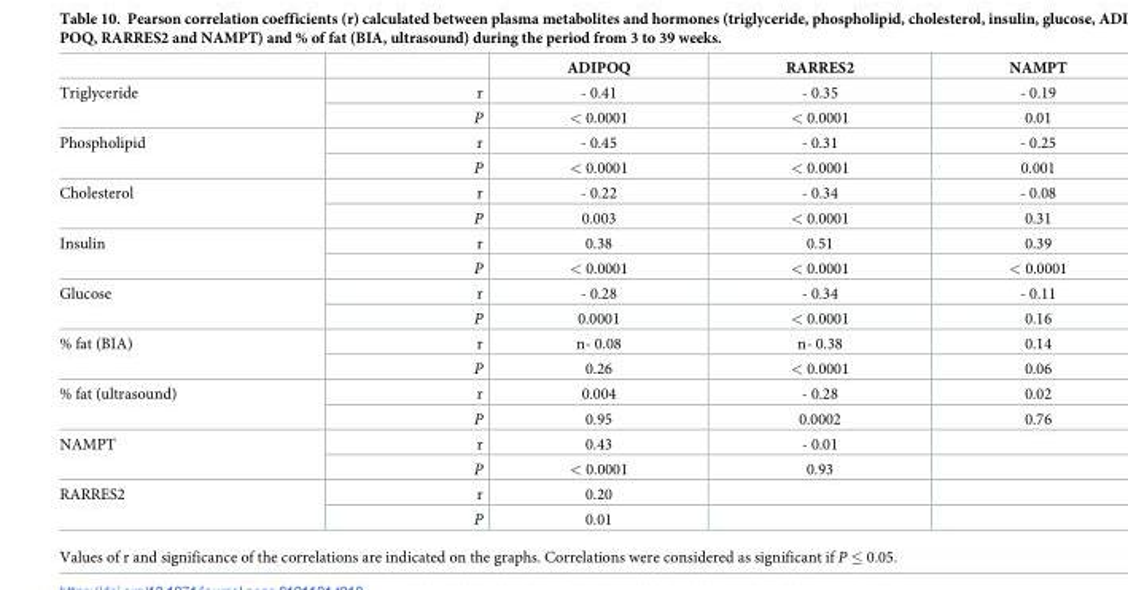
<table><thead><tr><td></td><td></td><td>ADIPOQ</td><td>RARRES2</td><td>NAMPT</td></tr></thead><tbody><tr><td rowspan="2">Triglyceride</td><td>r</td><td>- 0.41</td><td>- 0.35</td><td>- 0.19</td></tr><tr><td>P</td><td>&lt; 0.0001</td><td>&lt; 0.0001</td><td>0.01</td></tr><tr><td rowspan="2">Phospholipid</td><td>r</td><td>- 0.45</td><td>- 0.31</td><td>- 0.25</td></tr><tr><td>P</td><td>&lt; 0.0001</td><td>&lt; 0.0001</td><td>0.001</td></tr><tr><td rowspan="2">Cholesterol</td><td>r</td><td>- 0.22</td><td>- 0.34</td><td>- 0.08</td></tr><tr><td>P</td><td>0.003</td><td>&lt; 0.0001</td><td>0.31</td></tr><tr><td rowspan="2">Insulin</td><td>r</td><td>0.38</td><td>0.51</td><td>0.39</td></tr><tr><td>P</td><td>&lt; 0.0001</td><td>&lt; 0.0001</td><td>&lt; 0.0001</td></tr><tr><td rowspan="2">Glucose</td><td>r</td><td>- 0.28</td><td>- 0.34</td><td>- 0.11</td></tr><tr><td>P</td><td>0.0001</td><td>&lt; 0.0001</td><td>0.16</td></tr><tr><td rowspan="2">% fat (BIA)</td><td>r</td><td>n- 0.08</td><td>n- 0.38</td><td>0.14</td></tr><tr><td>P</td><td>0.26</td><td>&lt; 0.0001</td><td>0.06</td></tr><tr><td rowspan="2">% fat (ultrasound)</td><td>r</td><td>0.004</td><td>- 0.28</td><td>0.02</td></tr><tr><td>P</td><td>0.95</td><td>0.0002</td><td>0.76</td></tr><tr><td rowspan="2">NAMPT</td><td>r</td><td>0.43</td><td>- 0.01</td><td></td></tr><tr><td>P</td><td>&lt; 0.0001</td><td>0.93</td><td></td></tr><tr><td rowspan="2">RARRES2</td><td>r</td><td>0.20</td><td></td><td></td></tr><tr><td>P</td><td>0.01</td><td></td><td></td></tr></tbody></table>